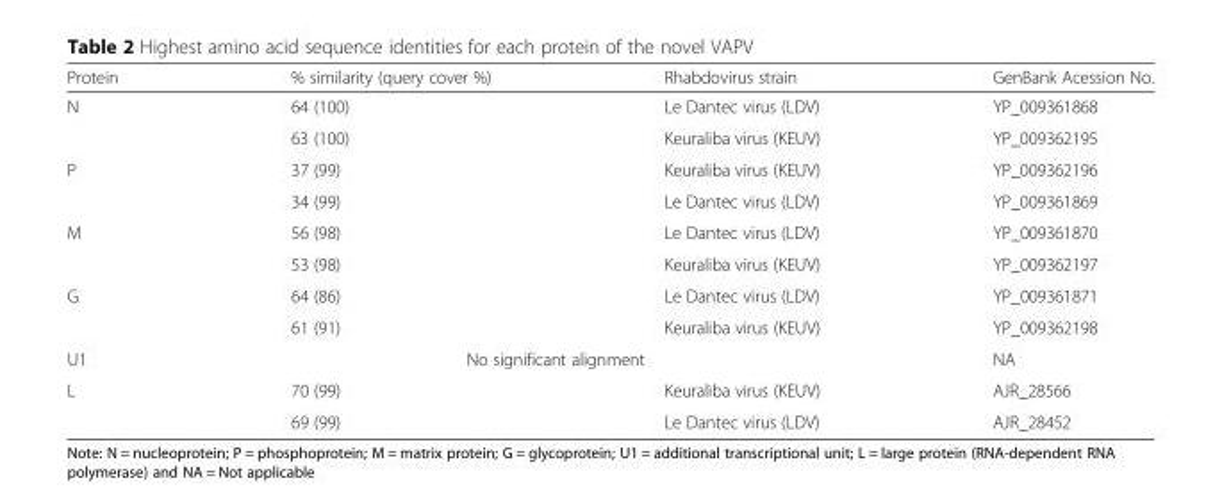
<table><thead><tr><td>Protein</td><td>% similarity (query cover %)</td><td>Rhabdovirus strain</td><td>GenBank Acession No.</td></tr></thead><tbody><tr><td rowspan="2">N</td><td>64 (100)</td><td>Le Dantec virus (LDV)</td><td>YP_009361868</td></tr><tr><td>63 (100)</td><td>Keuraliba virus (KEUV)</td><td>YP_009362195</td></tr><tr><td rowspan="2">P</td><td>37 (99)</td><td>Keuraliba virus (KEUV)</td><td>YP_009362196</td></tr><tr><td>34 (99)</td><td>Le Dantec virus (LDV)</td><td>YP_009361869</td></tr><tr><td rowspan="2">M</td><td>56 (98)</td><td>Le Dantec virus (LDV)</td><td>YP_009361870</td></tr><tr><td>53 (98)</td><td>Keuraliba virus (KEUV)</td><td>YP_009362197</td></tr><tr><td rowspan="2">G</td><td>64 (86)</td><td>Le Dantec virus (LDV)</td><td>YP_009361871</td></tr><tr><td>61 (91)</td><td>Keuraliba virus (KEUV)</td><td>YP_009362198</td></tr><tr><td>U1</td><td colspan="2">No significant alignment</td><td>NA</td></tr><tr><td rowspan="2">L</td><td>70 (99)</td><td>Keuraliba virus (KEUV)</td><td>AJR_28566</td></tr><tr><td>69 (99)</td><td>Le Dantec virus (LDV)</td><td>AJR_28452</td></tr></tbody></table>